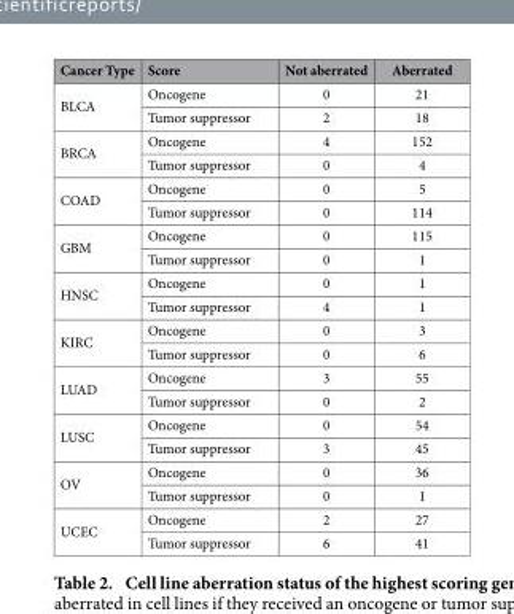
<table><thead><tr><td>Cancer Type</td><td>Score</td><td>Not aberrated</td><td>Aberrated</td></tr></thead><tbody><tr><td rowspan="2">BLCA</td><td>Oncogene</td><td>0</td><td>21</td></tr><tr><td>Tumor suppressor</td><td>2</td><td>18</td></tr><tr><td rowspan="2">BRCA</td><td>Oncogene</td><td>4</td><td>152</td></tr><tr><td>Tumor suppressor</td><td>0</td><td>4</td></tr><tr><td rowspan="2">COAD</td><td>Oncogene</td><td>0</td><td>5</td></tr><tr><td>Tumor suppressor</td><td>0</td><td>114</td></tr><tr><td rowspan="2">GBM</td><td>Oncogene</td><td>0</td><td>115</td></tr><tr><td>Tumor suppressor</td><td>0</td><td>1</td></tr><tr><td rowspan="2">HNSC</td><td>Oncogene</td><td>0</td><td>1</td></tr><tr><td>Tumor suppressor</td><td>4</td><td>1</td></tr><tr><td rowspan="2">KIRC</td><td>Oncogene</td><td>0</td><td>3</td></tr><tr><td>Tumor suppressor</td><td>0</td><td>6</td></tr><tr><td rowspan="2">LUAD</td><td>Oncogene</td><td>3</td><td>55</td></tr><tr><td>Tumor suppressor</td><td>0</td><td>2</td></tr><tr><td rowspan="2">LUSC</td><td>Oncogene</td><td>0</td><td>54</td></tr><tr><td>Tumor suppressor</td><td>3</td><td>45</td></tr><tr><td rowspan="2">OV</td><td>Oncogene</td><td>0</td><td>36</td></tr><tr><td>Tumor suppressor</td><td>0</td><td>1</td></tr><tr><td rowspan="2">UCEC</td><td>Oncogene</td><td>2</td><td>27</td></tr><tr><td>Tumor suppressor</td><td>6</td><td>41</td></tr></tbody></table>